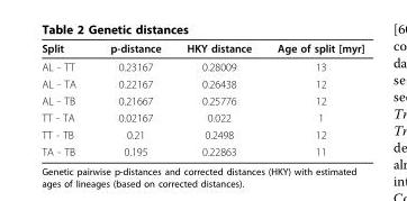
<table><thead><tr><td>Split</td><td>p-distance</td><td>HKY distance</td><td>Age of split [myr]</td></tr></thead><tbody><tr><td>AL - TT</td><td>0.23167</td><td>0.28009</td><td>13</td></tr><tr><td>AL - TA</td><td>0.22167</td><td>0.26438</td><td>12</td></tr><tr><td>AL - TB</td><td>0.21667</td><td>0.25776</td><td>12</td></tr><tr><td>TT - TA</td><td>0.02167</td><td>0.022</td><td>1</td></tr><tr><td>TT - TB</td><td>0.21</td><td>0.2498</td><td>12</td></tr><tr><td>TA - TB</td><td>0.195</td><td>0.22863</td><td>11</td></tr></tbody></table>